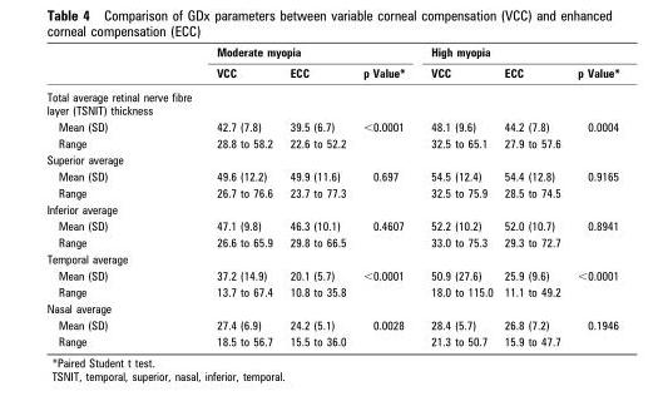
<table><thead><tr><td rowspan="2"></td><td colspan="3">Moderate myopia</td><td colspan="3">High myopia</td></tr><tr><td>VCC</td><td>ECC</td><td>p Value*</td><td>VCC</td><td>ECC</td><td>p Value*</td></tr></thead><tbody><tr><td colspan="7">Total average retinal nerve fibre layer (TSNIT) thickness</td></tr><tr><td>Mean (SD)</td><td>42.7 (7.8)</td><td>39.5 (6.7)</td><td>&lt;0.0001</td><td>48.1 (9.6)</td><td>44.2 (7.8)</td><td>0.0004</td></tr><tr><td>Range</td><td>28.8 to 58.2</td><td>22.6 to 52.2</td><td></td><td>32.5 to 65.1</td><td>27.9 to 57.6</td><td></td></tr><tr><td colspan="7">Superior average</td></tr><tr><td>Mean (SD)</td><td>49.6 (12.2)</td><td>49.9 (11.6)</td><td>0.697</td><td>54.5 (12.4)</td><td>54.4 (12.8)</td><td>0.9165</td></tr><tr><td>Range</td><td>26.7 to 76.6</td><td>23.7 to 77.3</td><td></td><td>32.5 to 75.9</td><td>28.5 to 74.5</td><td></td></tr><tr><td colspan="7">Inferior average</td></tr><tr><td>Mean (SD)</td><td>47.1 (9.8)</td><td>46.3 (10.1)</td><td>0.4607</td><td>52.2 (10.2)</td><td>52.0 (10.7)</td><td>0.8941</td></tr><tr><td>Range</td><td>26.6 to 65.9</td><td>29.8 to 66.5</td><td></td><td>33.0 to 75.3</td><td>29.3 to 72.7</td><td></td></tr><tr><td colspan="7">Temporal average</td></tr><tr><td>Mean (SD)</td><td>37.2 (14.9)</td><td>20.1 (5.7)</td><td>&lt;0.0001</td><td>50.9 (27.6)</td><td>25.9 (9.6)</td><td>&lt;0.0001</td></tr><tr><td>Range</td><td>13.7 to 67.4</td><td>10.8 to 35.8</td><td></td><td>18.0 to 115.0</td><td>11.1 to 49.2</td><td></td></tr><tr><td colspan="7">Nasal average</td></tr><tr><td>Mean (SD)</td><td>27.4 (6.9)</td><td>24.2 (5.1)</td><td>0.0028</td><td>28.4 (5.7)</td><td>26.8 (7.2)</td><td>0.1946</td></tr><tr><td>Range</td><td>18.5 to 56.7</td><td>15.5 to 36.0</td><td></td><td>21.3 to 50.7</td><td>15.9 to 47.7</td><td></td></tr></tbody></table>